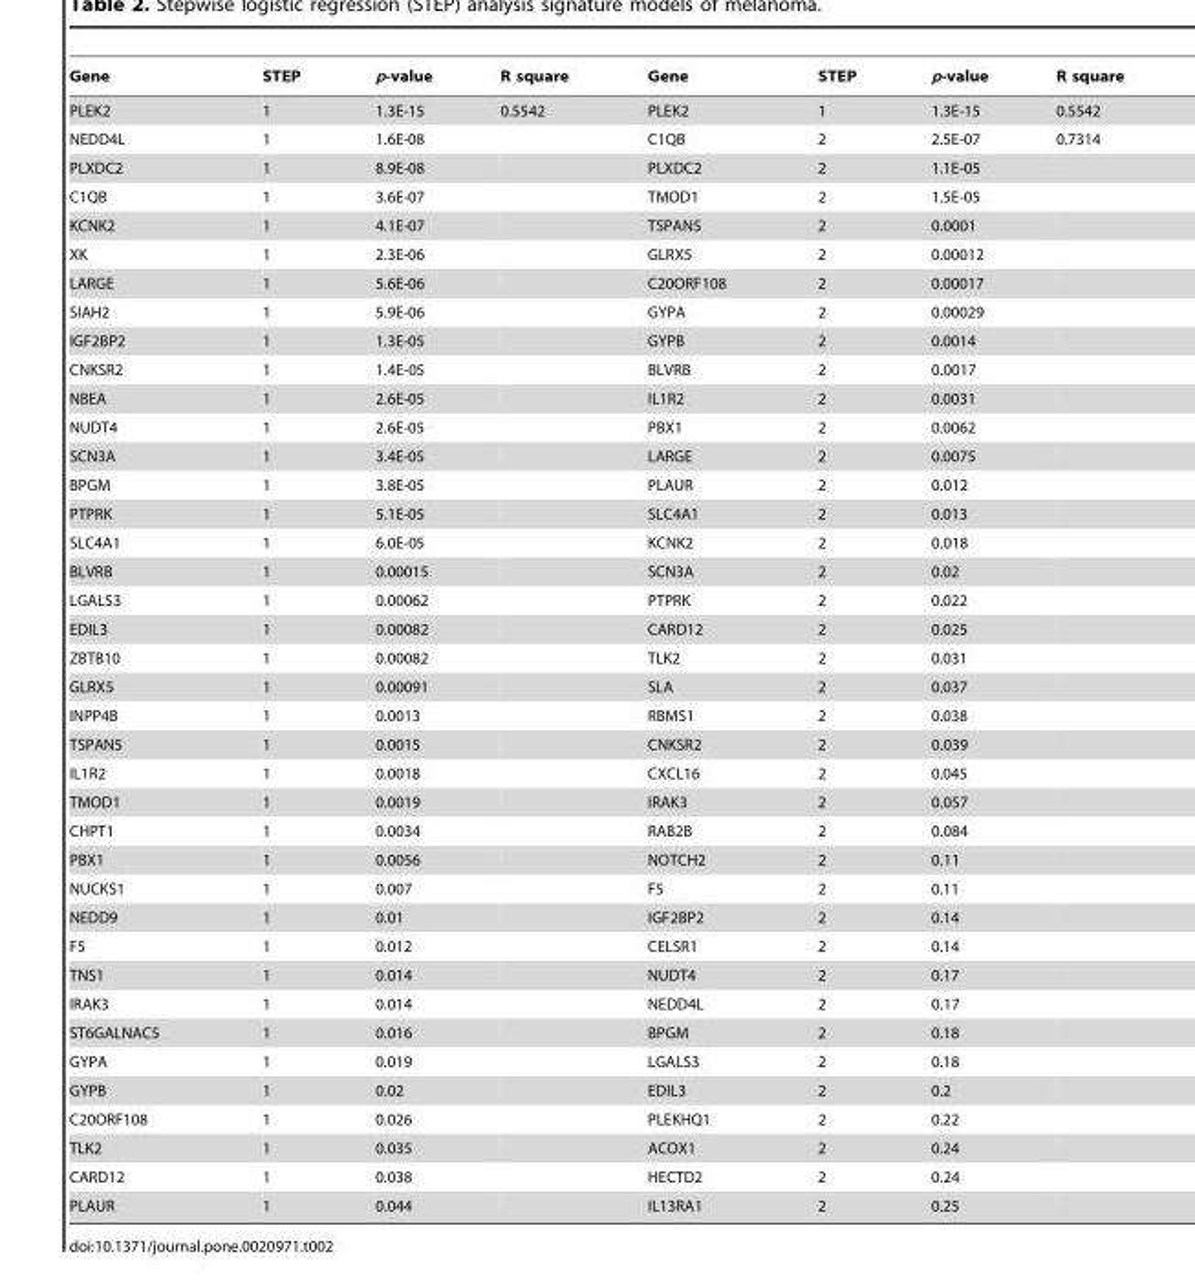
<table><thead><tr><td>Gene</td><td>STEP</td><td>p-value</td><td>R square</td><td>Gene</td><td>STEP</td><td>p-value</td><td>R square</td></tr></thead><tbody><tr><td>PLEK2</td><td>1</td><td>1.3E-15</td><td>0.5542</td><td>PLEK2</td><td>1</td><td>1.3E-15</td><td>0.5542</td></tr><tr><td>NEDD4L</td><td>1</td><td>1.6E-08</td><td></td><td>C1QB</td><td>2</td><td>2.5E-07</td><td>0.7314</td></tr><tr><td>PLXDC2</td><td>1</td><td>8.9E-08</td><td></td><td>PLXDC2</td><td>2</td><td>1.1E-05</td><td></td></tr><tr><td>C1QB</td><td>1</td><td>3.6E-07</td><td></td><td>TMOD1</td><td>2</td><td>1.5E-05</td><td></td></tr><tr><td>KCNK2</td><td>1</td><td>4.1E-07</td><td></td><td>TSPAN5</td><td>2</td><td>0.0001</td><td></td></tr><tr><td>XK</td><td>1</td><td>2.3E-06</td><td></td><td>GLRX5</td><td>2</td><td>0.00012</td><td></td></tr><tr><td>LARGE</td><td>1</td><td>5.6E-06</td><td></td><td>C20ORF108</td><td>2</td><td>0.00017</td><td></td></tr><tr><td>SIAH2</td><td>1</td><td>5.9E-06</td><td></td><td>GYPA</td><td>2</td><td>0.00029</td><td></td></tr><tr><td>IGF2BP2</td><td>1</td><td>1.3E-05</td><td></td><td>GYPB</td><td>2</td><td>0.0014</td><td></td></tr><tr><td>CNKSR2</td><td>1</td><td>1.4E-05</td><td></td><td>BLVRB</td><td>2</td><td>0.0017</td><td></td></tr><tr><td>NBEA</td><td>1</td><td>2.6E-05</td><td></td><td>IL1R2</td><td>2</td><td>0.0031</td><td></td></tr><tr><td>NUDT4</td><td>1</td><td>2.6E-05</td><td></td><td>PBX1</td><td>2</td><td>0.0062</td><td></td></tr><tr><td>SCN3A</td><td>1</td><td>3.4E-05</td><td></td><td>LARGE</td><td>2</td><td>0.0075</td><td></td></tr><tr><td>BPGM</td><td>1</td><td>3.8E-05</td><td></td><td>PLAUR</td><td>2</td><td>0.012</td><td></td></tr><tr><td>PTPRK</td><td>1</td><td>5.1E-05</td><td></td><td>SLC4A1</td><td>2</td><td>0.013</td><td></td></tr><tr><td>SLC4A1</td><td>1</td><td>6.0E-05</td><td></td><td>KCNK2</td><td>2</td><td>0.018</td><td></td></tr><tr><td>BLVRB</td><td>1</td><td>0.00015</td><td></td><td>SCN3A</td><td>2</td><td>0.02</td><td></td></tr><tr><td>LGALS3</td><td>1</td><td>0.00062</td><td></td><td>PTPRK</td><td>2</td><td>0.022</td><td></td></tr><tr><td>EDIL3</td><td>1</td><td>0.00082</td><td></td><td>CARD12</td><td>2</td><td>0.025</td><td></td></tr><tr><td>ZBTB10</td><td>1</td><td>0.00082</td><td></td><td>TLK2</td><td>2</td><td>0.031</td><td></td></tr><tr><td>GLRX5</td><td>1</td><td>0.00091</td><td></td><td>SLA</td><td>2</td><td>0.037</td><td></td></tr><tr><td>INPP4B</td><td>1</td><td>0.0013</td><td></td><td>RBMS1</td><td>2</td><td>0.038</td><td></td></tr><tr><td>TSPAN5</td><td>1</td><td>0.0015</td><td></td><td>CNKSR2</td><td>2</td><td>0.039</td><td></td></tr><tr><td>IL1R2</td><td>1</td><td>0.0018</td><td></td><td>CXCL16</td><td>2</td><td>0.045</td><td></td></tr><tr><td>TMOD1</td><td>1</td><td>0.0019</td><td></td><td>IRAK3</td><td>2</td><td>0.057</td><td></td></tr><tr><td>CHPT1</td><td>1</td><td>0.0034</td><td></td><td>RAB2B</td><td>2</td><td>0.084</td><td></td></tr><tr><td>PBX1</td><td>1</td><td>0.0056</td><td></td><td>NOTCH2</td><td>2</td><td>0.11</td><td></td></tr><tr><td>NUCKS1</td><td>1</td><td>0.007</td><td></td><td>F5</td><td>2</td><td>0.11</td><td></td></tr><tr><td>NEDD9</td><td>1</td><td>0.01</td><td></td><td>IGF2BP2</td><td>2</td><td>0.14</td><td></td></tr><tr><td>F5</td><td>1</td><td>0.012</td><td></td><td>CELSR1</td><td>2</td><td>0.14</td><td></td></tr><tr><td>TNS1</td><td>1</td><td>0.014</td><td></td><td>NUDT4</td><td>2</td><td>0.17</td><td></td></tr><tr><td>IRAK3</td><td>1</td><td>0.014</td><td></td><td>NEDD4L</td><td>2</td><td>0.17</td><td></td></tr><tr><td>ST6GALNAC5</td><td>1</td><td>0.016</td><td></td><td>BPGM</td><td>2</td><td>0.18</td><td></td></tr><tr><td>GYPA</td><td>1</td><td>0.019</td><td></td><td>LGALS3</td><td>2</td><td>0.18</td><td></td></tr><tr><td>GYPB</td><td>1</td><td>0.02</td><td></td><td>EDIL3</td><td>2</td><td>0.2</td><td></td></tr><tr><td>C20ORF108</td><td>1</td><td>0.026</td><td></td><td>PLEKHQ1</td><td>2</td><td>0.22</td><td></td></tr><tr><td>TLK2</td><td>1</td><td>0.035</td><td></td><td>ACOX1</td><td>2</td><td>0.24</td><td></td></tr><tr><td>CARD12</td><td>1</td><td>0.038</td><td></td><td>HECTD2</td><td>2</td><td>0.24</td><td></td></tr><tr><td>PLAUR</td><td>1</td><td>0.044</td><td></td><td>IL13RA1</td><td>2</td><td>0.25</td><td></td></tr></tbody></table>